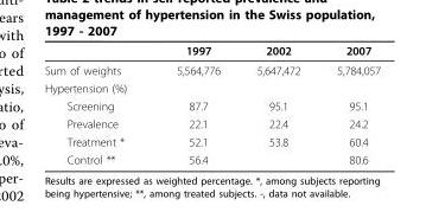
<table><thead><tr><td></td><td>1997</td><td>2002</td><td>2007</td></tr></thead><tbody><tr><td>Sum of weights</td><td>5,564,776</td><td>5,647,472</td><td>5,784,057</td></tr><tr><td colspan="4">Hypertension (%)</td></tr><tr><td>Screening</td><td>87.7</td><td>95.1</td><td>95.1</td></tr><tr><td>Prevalence</td><td>22.1</td><td>22.4</td><td>24.2</td></tr><tr><td>Treatment *</td><td>52.1</td><td>53.8</td><td>60.4</td></tr><tr><td>Control **</td><td>56.4</td><td></td><td>80.6</td></tr></tbody></table>